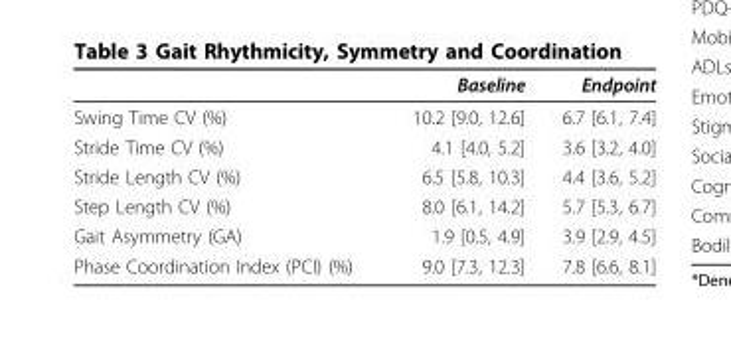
<table><thead><tr><td></td><td>Baseline</td><td>Endpoint</td></tr></thead><tbody><tr><td>Swing Time CV (%)</td><td>10.2 [9.0, 12.6]</td><td>6.7 [6.1, 7.4]</td></tr><tr><td>Stride Time CV (%)</td><td>4.1 [4.0, 5.2]</td><td>3.6 [3.2, 4.0]</td></tr><tr><td>Stride Length CV (%)</td><td>6.5 [5.8, 10.3]</td><td>4.4 [3.6, 5.2]</td></tr><tr><td>Step Length CV (%)</td><td>8.0 [6.1, 14.2]</td><td>5.7 [5.3, 6.7]</td></tr><tr><td>Gait Asymmetry (GA)</td><td>1.9 [0.5, 4.9]</td><td>3.9 [2.9, 4.5]</td></tr><tr><td>Phase Coordination Index (PCI) (%)</td><td>9.0 [7.3, 12.3]</td><td>7.8 [6.6, 8.1]</td></tr></tbody></table>